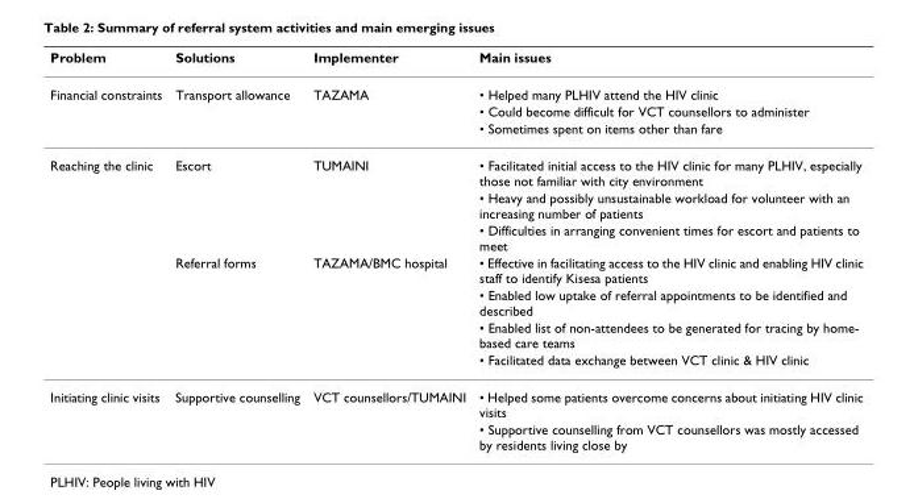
<table><thead><tr><td>Problem</td><td>Solutions</td><td>Implementer</td><td>Main issues</td></tr></thead><tbody><tr><td rowspan="3">Financial constraints</td><td>Transport allowance</td><td>TAZAMA</td><td>• Helped many PLHIV attend the HIV clinic</td></tr><tr><td></td><td></td><td>• Could become difficult for VCT counsellors to administer</td></tr><tr><td></td><td></td><td>• Sometimes spent on items other than fare</td></tr><tr><td rowspan="7">Reaching the clinic</td><td>Escort</td><td>TUMAINI</td><td>• Facilitated initial access to the HIV clinic for many PLHIV, especially those not familiar with city environment</td></tr><tr><td></td><td></td><td>• Heavy and possibly unsustainable workload for volunteer with an increasing number of patients</td></tr><tr><td></td><td></td><td>• Difficulties in arranging convenient times for escort and patients to meet</td></tr><tr><td>Referral forms</td><td>TAZAMA/BMC hospital</td><td>• Effective in facilitating access to the HIV clinic and enabling HIV clinic staff to identify Kisesa patients</td></tr><tr><td></td><td></td><td>• Enabled low uptake of referral appointments to be identified and described</td></tr><tr><td></td><td></td><td>• Enabled list of non-attendees to be generated for tracing by home- based care teams</td></tr><tr><td></td><td></td><td>• Facilitated data exchange between VCT clinic &amp; HIV clinic</td></tr><tr><td rowspan="2">Initiating clinic visits</td><td>Supportive counselling</td><td>VCT counsellors/TUMAINI</td><td>• Helped some patients overcome concerns about initiating HIV clinic visits</td></tr><tr><td></td><td></td><td>• Supportive counselling from VCT counsellors was mostly accessed by residents living close by</td></tr></tbody></table>